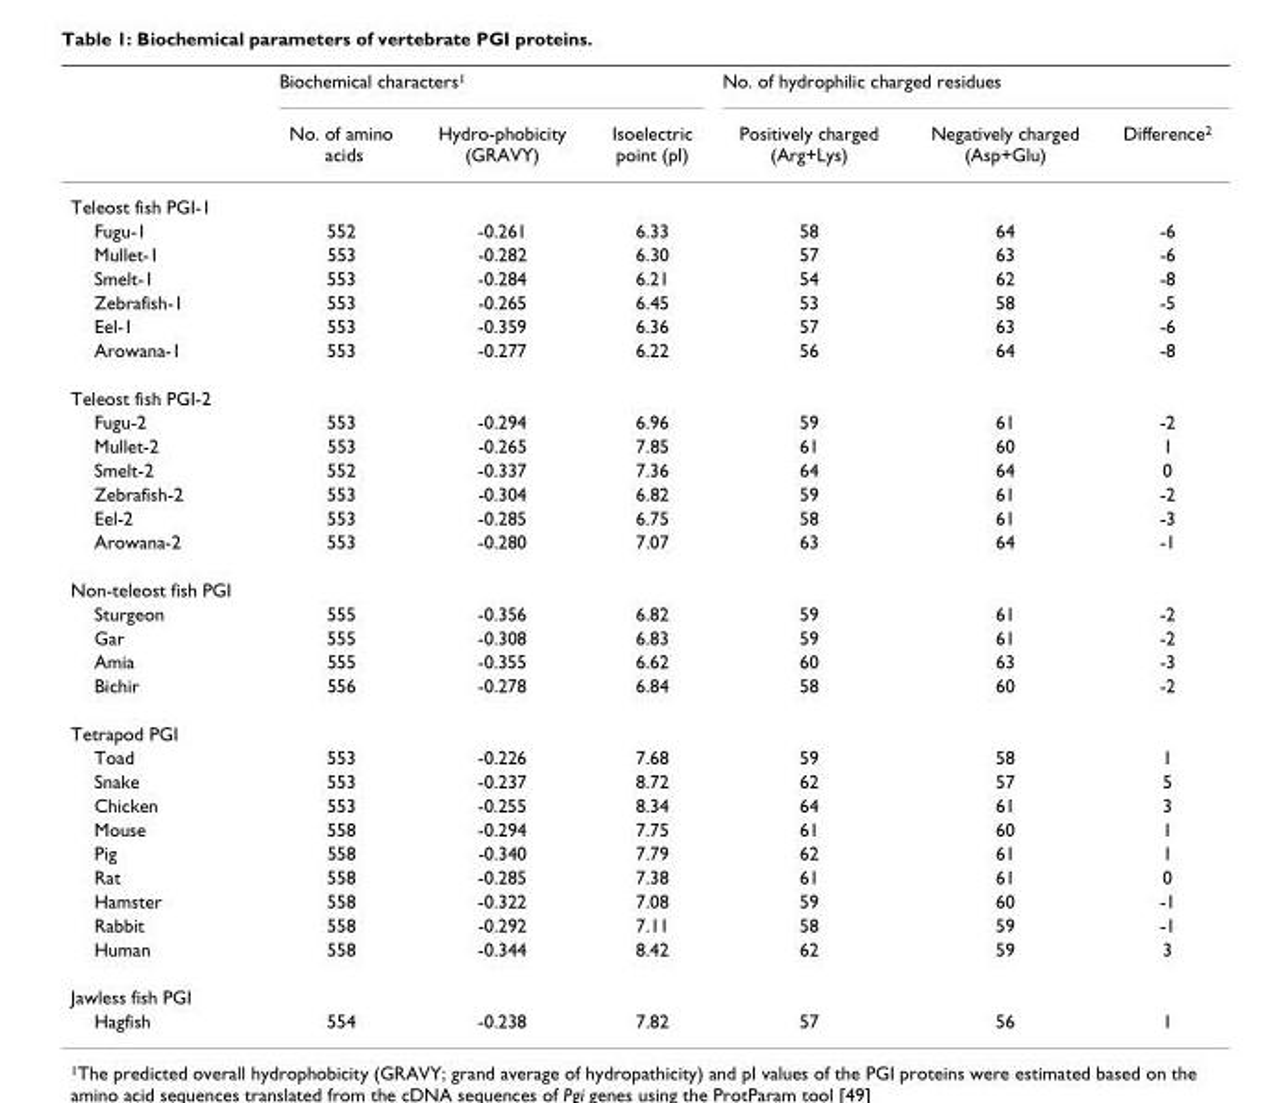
<table><thead><tr><td rowspan="2"></td><td colspan="3">Biochemical characters<sup>1</sup></td><td colspan="3">No. of hydrophilic charged residues</td></tr><tr><td>No. of amino acids</td><td>Hydro-phobicity (GRAVY)</td><td>Isoelectric point (pI)</td><td>Positively charged (Arg+Lys)</td><td>Negatively charged (Asp+Glu)</td><td>Difference<sup>2</sup></td></tr></thead><tbody><tr><td colspan="7">Teleost fish PGI-1</td></tr><tr><td>Fugu-1</td><td>552</td><td>-0.261</td><td>6.33</td><td>58</td><td>64</td><td>-6</td></tr><tr><td>Mullet-1</td><td>553</td><td>-0.282</td><td>6.30</td><td>57</td><td>63</td><td>-6</td></tr><tr><td>Smelt-1</td><td>553</td><td>-0.284</td><td>6.21</td><td>54</td><td>62</td><td>-8</td></tr><tr><td>Zebrafish-1</td><td>553</td><td>-0.265</td><td>6.45</td><td>53</td><td>58</td><td>-5</td></tr><tr><td>Eel-1</td><td>553</td><td>-0.359</td><td>6.36</td><td>57</td><td>63</td><td>-6</td></tr><tr><td>Arowana-1</td><td>553</td><td>-0.277</td><td>6.22</td><td>56</td><td>64</td><td>-8</td></tr><tr><td colspan="7">Teleost fish PGI-2</td></tr><tr><td>Fugu-2</td><td>553</td><td>-0.294</td><td>6.96</td><td>59</td><td>61</td><td>-2</td></tr><tr><td>Mullet-2</td><td>553</td><td>-0.265</td><td>7.85</td><td>61</td><td>60</td><td>1</td></tr><tr><td>Smelt-2</td><td>552</td><td>-0.337</td><td>7.36</td><td>64</td><td>64</td><td>0</td></tr><tr><td>Zebrafish-2</td><td>553</td><td>-0.304</td><td>6.82</td><td>59</td><td>61</td><td>-2</td></tr><tr><td>Eel-2</td><td>553</td><td>-0.285</td><td>6.75</td><td>58</td><td>61</td><td>-3</td></tr><tr><td>Arowana-2</td><td>553</td><td>-0.280</td><td>7.07</td><td>63</td><td>64</td><td>-1</td></tr><tr><td colspan="7">Non-teleost fish PGI</td></tr><tr><td>Sturgeon</td><td>555</td><td>-0.356</td><td>6.82</td><td>59</td><td>61</td><td>-2</td></tr><tr><td>Gar</td><td>555</td><td>-0.308</td><td>6.83</td><td>59</td><td>61</td><td>-2</td></tr><tr><td>Amia</td><td>555</td><td>-0.355</td><td>6.62</td><td>60</td><td>63</td><td>-3</td></tr><tr><td>Bichir</td><td>556</td><td>-0.278</td><td>6.84</td><td>58</td><td>60</td><td>-2</td></tr><tr><td colspan="7">Tetrapod PGI</td></tr><tr><td>Toad</td><td>553</td><td>-0.226</td><td>7.68</td><td>59</td><td>58</td><td>1</td></tr><tr><td>Snake</td><td>553</td><td>-0.237</td><td>8.72</td><td>62</td><td>57</td><td>5</td></tr><tr><td>Chicken</td><td>553</td><td>-0.255</td><td>8.34</td><td>64</td><td>61</td><td>3</td></tr><tr><td>Mouse</td><td>558</td><td>-0.294</td><td>7.75</td><td>61</td><td>60</td><td>1</td></tr><tr><td>Pig</td><td>558</td><td>-0.340</td><td>7.79</td><td>62</td><td>61</td><td>1</td></tr><tr><td>Rat</td><td>558</td><td>-0.285</td><td>7.38</td><td>61</td><td>61</td><td>0</td></tr><tr><td>Hamster</td><td>558</td><td>-0.322</td><td>7.08</td><td>59</td><td>60</td><td>-1</td></tr><tr><td>Rabbit</td><td>558</td><td>-0.292</td><td>7.11</td><td>58</td><td>59</td><td>-1</td></tr><tr><td>Human</td><td>558</td><td>-0.344</td><td>8.42</td><td>62</td><td>59</td><td>3</td></tr><tr><td colspan="7">Jawless fish PGI</td></tr><tr><td>Hagfish</td><td>554</td><td>-0.238</td><td>7.82</td><td>57</td><td>56</td><td>1</td></tr></tbody></table>